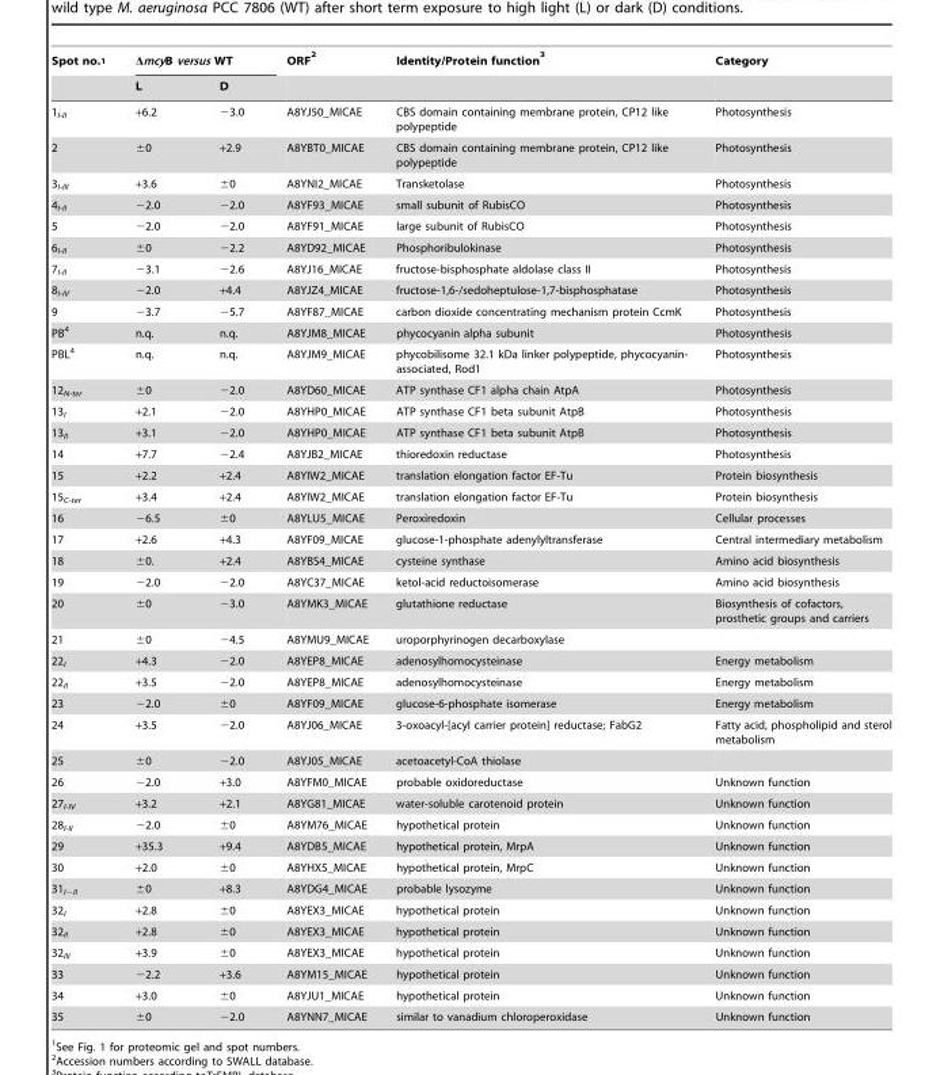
<table><thead><tr><td rowspan="2">Spot no.<sup>1</sup></td><td colspan="2">ΔmcyB versus WT</td><td rowspan="2">ORF <sup>2</sup></td><td rowspan="2">Identity/Protein function <sup>3</sup></td><td rowspan="2">Category</td></tr><tr><td>L</td><td>D</td></tr></thead><tbody><tr><td>1<sub>I-II</sub></td><td>+6.2</td><td>−3.0</td><td>A8YJ50_MICAE</td><td>CBS domain containing membrane protein, CP12 like polypeptide</td><td>Photosynthesis</td></tr><tr><td>2</td><td>±0</td><td>+2.9</td><td>A8YBT0_MICAE</td><td>CBS domain containing membrane protein, CP12 like polypeptide</td><td>Photosynthesis</td></tr><tr><td>3<sub>I-III</sub></td><td>+3.6</td><td>±0</td><td>A8YNI2_MICAE</td><td>Transketolase</td><td>Photosynthesis</td></tr><tr><td>4<sub>I-II</sub></td><td>−2.0</td><td>−2.0</td><td>A8YF93_MICAE</td><td>small subunit of RubisCO</td><td>Photosynthesis</td></tr><tr><td>5</td><td>−2.0</td><td>−2.0</td><td>A8YF91_MICAE</td><td>large subunit of RubisCO</td><td>Photosynthesis</td></tr><tr><td>6<sub>I-II</sub></td><td>±0</td><td>−2.2</td><td>A8YD92_MICAE</td><td>Phosphoribulokinase</td><td>Photosynthesis</td></tr><tr><td>7<sub>I-II</sub></td><td>−3.1</td><td>−2.6</td><td>A8YJ16_MICAE</td><td>fructose-bisphosphate aldolase class II</td><td>Photosynthesis</td></tr><tr><td>8<sub>I-IV</sub></td><td>−2.0</td><td>+4.4</td><td>A8YJZ4_MICAE</td><td>fructose-1,6-/sedoheptulose-1,7-bisphosphatase</td><td>Photosynthesis</td></tr><tr><td>9</td><td>−3.7</td><td>−5.7</td><td>A8YF87_MICAE</td><td>carbon dioxide concentrating mechanism protein CcmK</td><td>Photosynthesis</td></tr><tr><td>PB<sup>4</sup></td><td>n.q.</td><td>n.q.</td><td>A8YJM8_MICAE</td><td>phycocyanin alpha subunit</td><td>Photosynthesis</td></tr><tr><td>PBL<sup>4</sup></td><td>n.q.</td><td>n.q.</td><td>A8YJM9_MICAE</td><td>phycobilisome 32.1 kDa linker polypeptide, phycocyanin- associated, Rod1</td><td>Photosynthesis</td></tr><tr><td>12<sub>N-ter</sub></td><td>±0</td><td>−2.0</td><td>A8YD60_MICAE</td><td>ATP synthase CF1 alpha chain AtpA</td><td>Photosynthesis</td></tr><tr><td>13<sub>I</sub></td><td>+2.1</td><td>−2.0</td><td>A8YHP0_MICAE</td><td>ATP synthase CF1 beta subunit AtpB</td><td>Photosynthesis</td></tr><tr><td>13<sub>II</sub></td><td>+3.1</td><td>−2.0</td><td>A8YHP0_MICAE</td><td>ATP synthase CF1 beta subunit AtpB</td><td>Photosynthesis</td></tr><tr><td>14</td><td>+7.7</td><td>−2.4</td><td>A8YJB2_MICAE</td><td>thioredoxin reductase</td><td>Photosynthesis</td></tr><tr><td>15</td><td>+2.2</td><td>+2.4</td><td>A8YIW2_MICAE</td><td>translation elongation factor EF-Tu</td><td>Protein biosynthesis</td></tr><tr><td>15<sub>C-ter</sub></td><td>+3.4</td><td>+2.4</td><td>A8YIW2_MICAE</td><td>translation elongation factor EF-Tu</td><td>Protein biosynthesis</td></tr><tr><td>16</td><td>−6.5</td><td>±0</td><td>A8YLU5_MICAE</td><td>Peroxiredoxin</td><td>Cellular processes</td></tr><tr><td>17</td><td>+2.6</td><td>+4.3</td><td>A8YF09_MICAE</td><td>glucose-1-phosphate adenylyltransferase</td><td>Central intermediary metabolism</td></tr><tr><td>18</td><td>±0.</td><td>+2.4</td><td>A8YBS4_MICAE</td><td>cysteine synthase</td><td>Amino acid biosynthesis</td></tr><tr><td>19</td><td>−2.0</td><td>−2.0</td><td>A8YC37_MICAE</td><td>ketol-acid reductoisomerase</td><td>Amino acid biosynthesis</td></tr><tr><td>20</td><td>±0</td><td>−3.0</td><td>A8YMK3_MICAE</td><td>glutathione reductase</td><td>Biosynthesis of cofactors, prosthetic groups and carriers</td></tr><tr><td>21</td><td>±0</td><td>−4.5</td><td>A8YMU9_MICAE</td><td>uroporphyrinogen decarboxylase</td><td></td></tr><tr><td>22<sub>I</sub></td><td>+4.3</td><td>−2.0</td><td>A8YEP8_MICAE</td><td>adenosylhomocysteinase</td><td>Energy metabolism</td></tr><tr><td>22<sub>II</sub></td><td>+3.5</td><td>−2.0</td><td>A8YEP8_MICAE</td><td>adenosylhomocysteinase</td><td>Energy metabolism</td></tr><tr><td>23</td><td>−2.0</td><td>±0</td><td>A8YF09_MICAE</td><td>glucose-6-phosphate isomerase</td><td>Energy metabolism</td></tr><tr><td>24</td><td>+3.5</td><td>−2.0</td><td>A8YJ06_MICAE</td><td>3-oxoacyl-[acyl carrier protein] reductase; FabG2</td><td>Fatty acid, phospholipid and sterol metabolism</td></tr><tr><td>25</td><td>±0</td><td>−2.0</td><td>A8YJ05_MICAE</td><td>acetoacetyl-CoA thiolase</td><td></td></tr><tr><td>26</td><td>−2.0</td><td>+3.0</td><td>A8YFM0_MICAE</td><td>probable oxidoreductase</td><td>Unknown function</td></tr><tr><td>27<sub>I-IV</sub></td><td>+3.2</td><td>+2.1</td><td>A8YG81_MICAE</td><td>water-soluble carotenoid protein</td><td>Unknown function</td></tr><tr><td>28<sub>I-II</sub></td><td>−2.0</td><td>±0</td><td>A8YM76_MICAE</td><td>hypothetical protein</td><td>Unknown function</td></tr><tr><td>29</td><td>+35.3</td><td>+9.4</td><td>A8YDB5_MICAE</td><td>hypothetical protein, MrpA</td><td>Unknown function</td></tr><tr><td>30</td><td>+2.0</td><td>±0</td><td>A8YHX5_MICAE</td><td>hypothetical protein, MrpC</td><td>Unknown function</td></tr><tr><td>31<sub>I−II</sub></td><td>±0</td><td>+8.3</td><td>A8YDG4_MICAE</td><td>probable lysozyme</td><td>Unknown function</td></tr><tr><td>32<sub>I</sub></td><td>+2.8</td><td>±0</td><td>A8YEX3_MICAE</td><td>hypothetical protein</td><td>Unknown function</td></tr><tr><td>32<sub>II</sub></td><td>+2.8</td><td>±0</td><td>A8YEX3_MICAE</td><td>hypothetical protein</td><td>Unknown function</td></tr><tr><td>32<sub>III</sub></td><td>+3.9</td><td>±0</td><td>A8YEX3_MICAE</td><td>hypothetical protein</td><td>Unknown function</td></tr><tr><td>33</td><td>−2.2</td><td>+3.6</td><td>A8YM15_MICAE</td><td>hypothetical protein</td><td>Unknown function</td></tr><tr><td>34</td><td>+3.0</td><td>±0</td><td>A8YJU1_MICAE</td><td>hypothetical protein</td><td>Unknown function</td></tr><tr><td>35</td><td>±0</td><td>−2.0</td><td>A8YNN7_MICAE</td><td>similar to vanadium chloroperoxidase</td><td>Unknown function</td></tr></tbody></table>